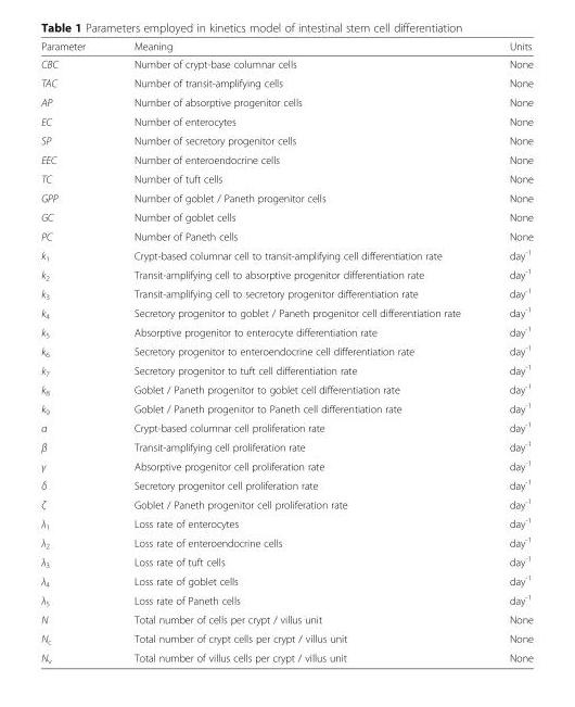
<table><thead><tr><td>Parameter</td><td>Meaning</td><td>Units</td></tr></thead><tbody><tr><td>CBC</td><td>Number of crypt-base columnar cells</td><td>None</td></tr><tr><td>TAC</td><td>Number of transit-amplifying cells</td><td>None</td></tr><tr><td>AP</td><td>Number of absorptive progenitor cells</td><td>None</td></tr><tr><td>EC</td><td>Number of enterocytes</td><td>None</td></tr><tr><td>SP</td><td>Number of secretory progenitor cells</td><td>None</td></tr><tr><td>EEC</td><td>Number of enteroendocrine cells</td><td>None</td></tr><tr><td>TC</td><td>Number of tuft cells</td><td>None</td></tr><tr><td>GPP</td><td>Number of goblet / Paneth progenitor cells</td><td>None</td></tr><tr><td>GC</td><td>Number of goblet cells</td><td>None</td></tr><tr><td>PC</td><td>Number of Paneth cells</td><td>None</td></tr><tr><td>k<sub>1</sub></td><td>Crypt-based columnar cell to transit-amplifying cell differentiation rate</td><td>day<sup>-1</sup></td></tr><tr><td>k<sub>2</sub></td><td>Transit-amplifying cell to absorptive progenitor differentiation rate</td><td>day<sup>-1</sup></td></tr><tr><td>k<sub>3</sub></td><td>Transit-amplifying cell to secretory progenitor differentiation rate</td><td>day<sup>-1</sup></td></tr><tr><td>k<sub>4</sub></td><td>Secretory progenitor to goblet / Paneth progenitor cell differentiation rate</td><td>day<sup>-1</sup></td></tr><tr><td>k<sub>5</sub></td><td>Absorptive progenitor to enterocyte differentiation rate</td><td>day<sup>-1</sup></td></tr><tr><td>k<sub>6</sub></td><td>Secretory progenitor to enteroendocrine cell differentiation rate</td><td>day<sup>-1</sup></td></tr><tr><td>k<sub>7</sub></td><td>Secretory progenitor to tuft cell differentiation rate</td><td>day<sup>-1</sup></td></tr><tr><td>k<sub>8</sub></td><td>Goblet / Paneth progenitor to goblet cell differentiation rate</td><td>day<sup>-1</sup></td></tr><tr><td>k<sub>9</sub></td><td>Goblet / Paneth progenitor to Paneth cell differentiation rate</td><td>day<sup>-1</sup></td></tr><tr><td>α</td><td>Crypt-based columnar cell proliferation rate</td><td>day<sup>-1</sup></td></tr><tr><td>β</td><td>Transit-amplifying cell proliferation rate</td><td>day<sup>-1</sup></td></tr><tr><td>γ</td><td>Absorptive progenitor cell proliferation rate</td><td>day<sup>-1</sup></td></tr><tr><td>δ</td><td>Secretory progenitor cell proliferation rate</td><td>day<sup>-1</sup></td></tr><tr><td>ζ</td><td>Goblet / Paneth progenitor cell proliferation rate</td><td>day<sup>-1</sup></td></tr><tr><td>λ<sub>1</sub></td><td>Loss rate of enterocytes</td><td>day<sup>-1</sup></td></tr><tr><td>λ<sub>2</sub></td><td>Loss rate of enteroendocrine cells</td><td>day<sup>-1</sup></td></tr><tr><td>λ<sub>3</sub></td><td>Loss rate of tuft cells</td><td>day<sup>-1</sup></td></tr><tr><td>λ<sub>4</sub></td><td>Loss rate of goblet cells</td><td>day<sup>-1</sup></td></tr><tr><td>λ<sub>5</sub></td><td>Loss rate of Paneth cells</td><td>day<sup>-1</sup></td></tr><tr><td>N</td><td>Total number of cells per crypt / villus unit</td><td>None</td></tr><tr><td>N<sub>c</sub></td><td>Total number of crypt cells per crypt / villus unit</td><td>None</td></tr><tr><td>N<sub>v</sub></td><td>Total number of villus cells per crypt / villus unit</td><td>None</td></tr></tbody></table>